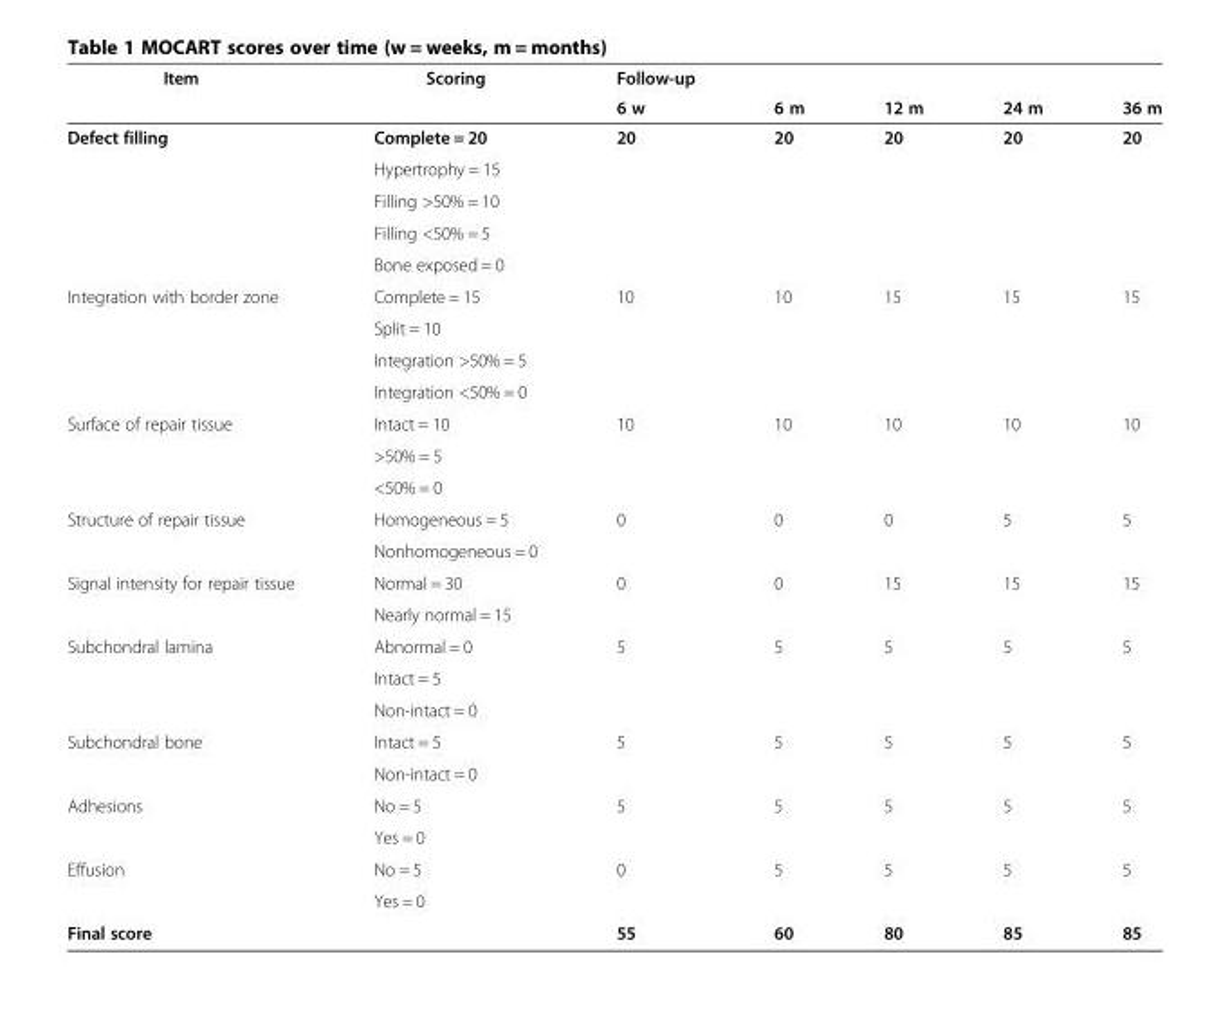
<table><thead><tr><td rowspan="2">Item</td><td rowspan="2">Scoring</td><td rowspan="2">Follow-up 6 w</td><td rowspan="2">6 m</td><td rowspan="2">12 m</td><td rowspan="2">24 m</td><td rowspan="2">36 m</td></tr><tr></tr></thead><tbody><tr><td rowspan="5">Defect filling</td><td>Complete = 20</td><td rowspan="5">20</td><td rowspan="5">20</td><td rowspan="5">20</td><td rowspan="5">20</td><td rowspan="5">20</td></tr><tr><td>Hypertrophy = 15</td></tr><tr><td>Filling &gt;50% = 10</td></tr><tr><td>Filling &lt;50% = 5</td></tr><tr><td>Bone exposed = 0</td></tr><tr><td rowspan="4">Integration with border zone</td><td>Complete = 15</td><td rowspan="4">10</td><td rowspan="4">10</td><td rowspan="4">15</td><td rowspan="4">15</td><td rowspan="4">15</td></tr><tr><td>Split = 10</td></tr><tr><td>Integration &gt;50% = 5</td></tr><tr><td>Integration &lt;50% = 0</td></tr><tr><td rowspan="3">Surface of repair tissue</td><td>Intact = 10</td><td rowspan="3">10</td><td rowspan="3">10</td><td rowspan="3">10</td><td rowspan="3">10</td><td rowspan="3">10</td></tr><tr><td>&gt;50% = 5</td></tr><tr><td>&lt;50% = 0</td></tr><tr><td rowspan="2">Structure of repair tissue</td><td>Homogeneous = 5</td><td rowspan="2">0</td><td rowspan="2">0</td><td rowspan="2">0</td><td rowspan="2">5</td><td rowspan="2">5</td></tr><tr><td>Nonhomogeneous = 0</td></tr><tr><td rowspan="2">Signal intensity for repair tissue</td><td>Normal = 30</td><td rowspan="2">0</td><td rowspan="2">0</td><td rowspan="2">15</td><td rowspan="2">15</td><td rowspan="2">15</td></tr><tr><td>Nearly normal = 15</td></tr><tr><td rowspan="3">Subchondral lamina</td><td>Abnormal = 0</td><td rowspan="3">5</td><td rowspan="3">5</td><td rowspan="3">5</td><td rowspan="3">5</td><td rowspan="3">5</td></tr><tr><td>Intact = 5</td></tr><tr><td>Non-intact = 0</td></tr><tr><td rowspan="2">Subchondral bone</td><td>Intact = 5</td><td rowspan="2">5</td><td rowspan="2">5</td><td rowspan="2">5</td><td rowspan="2">5</td><td rowspan="2">5</td></tr><tr><td>Non-intact = 0</td></tr><tr><td rowspan="2">Adhesions</td><td>No = 5</td><td rowspan="2">5</td><td rowspan="2">5</td><td rowspan="2">5</td><td rowspan="2">5</td><td rowspan="2">5</td></tr><tr><td>Yes = 0</td></tr><tr><td rowspan="2">Effusion</td><td>No = 5</td><td rowspan="2">0</td><td rowspan="2">5</td><td rowspan="2">5</td><td rowspan="2">5</td><td rowspan="2">5</td></tr><tr><td>Yes = 0</td></tr><tr><td>Final score</td><td></td><td>55</td><td>60</td><td>80</td><td>85</td><td>85</td></tr></tbody></table>